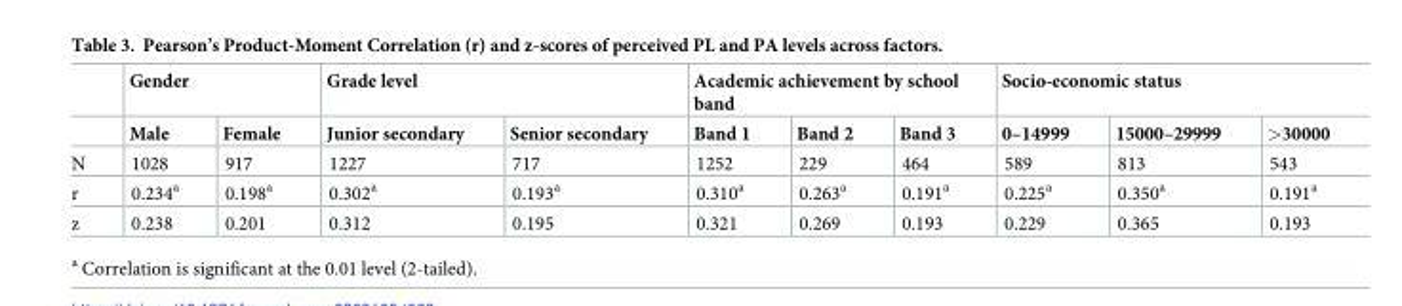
<table><thead><tr><td rowspan="2"></td><td colspan="2">Gender</td><td colspan="2">Grade level</td><td colspan="3">Academic achievement by school band</td><td colspan="3">Socio-economic status</td></tr><tr><td>Male</td><td>Female</td><td>Junior secondary</td><td>Senior secondary</td><td>Band 1</td><td>Band 2</td><td>Band 3</td><td>0–14999</td><td>15000–29999</td><td>&gt;30000</td></tr></thead><tbody><tr><td>N</td><td>1028</td><td>917</td><td>1227</td><td>717</td><td>1252</td><td>229</td><td>464</td><td>589</td><td>813</td><td>543</td></tr><tr><td>r</td><td>0.234<sup>a</sup></td><td>0.198<sup>a</sup></td><td>0.302<sup>a</sup></td><td>0.193<sup>a</sup></td><td>0.310<sup>a</sup></td><td>0.263<sup>a</sup></td><td>0.191<sup>a</sup></td><td>0.225<sup>a</sup></td><td>0.350<sup>a</sup></td><td>0.191<sup>a</sup></td></tr><tr><td>z</td><td>0.238</td><td>0.201</td><td>0.312</td><td>0.195</td><td>0.321</td><td>0.269</td><td>0.193</td><td>0.229</td><td>0.365</td><td>0.193</td></tr></tbody></table>